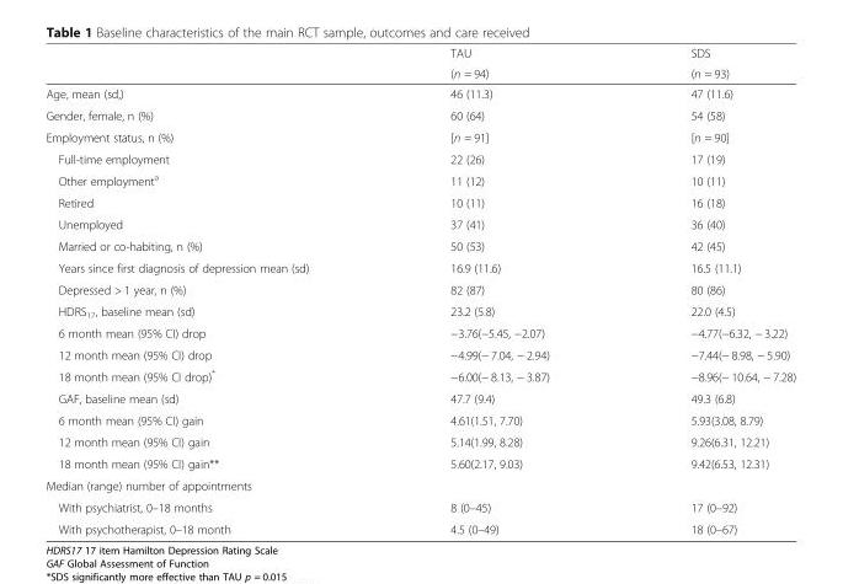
<table><thead><tr><td rowspan="2"></td><td rowspan="2">TAU (n = 94)</td><td rowspan="2">SDS (n = 93)</td></tr><tr></tr></thead><tbody><tr><td>Age, mean (sd,)</td><td>46 (11.3)</td><td>47 (11.6)</td></tr><tr><td>Gender, female, n (%)</td><td>60 (64)</td><td>54 (58)</td></tr><tr><td>Employment status, n (%)</td><td>[n = 91]</td><td>[n = 90]</td></tr><tr><td>Full-time employment</td><td>22 (26)</td><td>17 (19)</td></tr><tr><td>Other employment<sup>a</sup></td><td>11 (12)</td><td>10 (11)</td></tr><tr><td>Retired</td><td>10 (11)</td><td>16 (18)</td></tr><tr><td>Unemployed</td><td>37 (41)</td><td>36 (40)</td></tr><tr><td>Married or co-habiting, n (%)</td><td>50 (53)</td><td>42 (45)</td></tr><tr><td>Years since first diagnosis of depression mean (sd)</td><td>16.9 (11.6)</td><td>16.5 (11.1)</td></tr><tr><td>Depressed &gt; 1 year, n (%)</td><td>82 (87)</td><td>80 (86)</td></tr><tr><td>HDRS<sub>17</sub>, baseline mean (sd)</td><td>23.2 (5.8)</td><td>22.0 (4.5)</td></tr><tr><td>6 month mean (95% CI) drop</td><td>−3.76(−5.45, −2.07)</td><td>−4.77(−6.32, − 3.22)</td></tr><tr><td>12 month mean (95% CI) drop</td><td>−4.99(− 7.04, − 2.94)</td><td>−7.44(− 8.98, − 5.90)</td></tr><tr><td>18 month mean (95% CI drop)*</td><td>−6.00(− 8.13, − 3.87)</td><td>−8.96(− 10.64, − 7.28)</td></tr><tr><td>GAF, baseline mean (sd)</td><td>47.7 (9.4)</td><td>49.3 (6.8)</td></tr><tr><td>6 month mean (95% CI) gain</td><td>4.61(1.51, 7.70)</td><td>5.93(3.08, 8.79)</td></tr><tr><td>12 month mean (95% CI) gain</td><td>5.14(1.99, 8.28)</td><td>9.26(6.31, 12.21)</td></tr><tr><td>18 month mean (95% CI) gain**</td><td>5.60(2.17, 9.03)</td><td>9.42(6.53, 12.31)</td></tr><tr><td colspan="3">Median (range) number of appointments</td></tr><tr><td>With psychiatrist, 0–18 months</td><td>8 (0–45)</td><td>17 (0–92)</td></tr><tr><td>With psychotherapist, 0–18 month</td><td>4.5 (0–49)</td><td>18 (0–67)</td></tr></tbody></table>